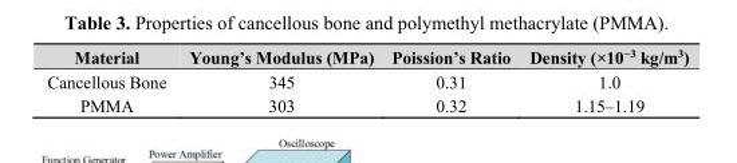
<table><thead><tr><td>Material</td><td>Young’s Modulus (MPa)</td><td>Poission’s Ratio</td><td>Density (×10<sup>−3</sup> kg/m<sup>3</sup>)</td></tr></thead><tbody><tr><td>Cancellous Bone</td><td>345</td><td>0.31</td><td>1.0</td></tr><tr><td>PMMA</td><td>303</td><td>0.32</td><td>1.15–1.19</td></tr></tbody></table>